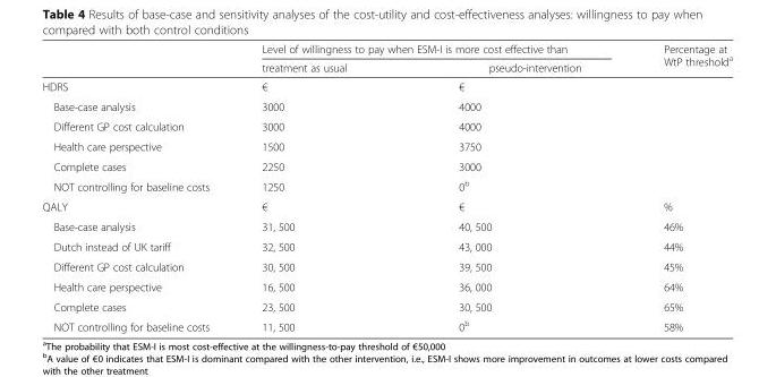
<table><thead><tr><td rowspan="2"></td><td colspan="2">Level of willingness to pay when ESM-I is more cost effective than</td><td rowspan="2">Percentage at WtP threshold<sup>a</sup></td></tr><tr><td>treatment as usual</td><td>pseudo-intervention</td></tr></thead><tbody><tr><td>HDRS</td><td>€</td><td>€</td><td></td></tr><tr><td>Base-case analysis</td><td>3000</td><td>4000</td><td></td></tr><tr><td>Different GP cost calculation</td><td>3000</td><td>4000</td><td></td></tr><tr><td>Health care perspective</td><td>1500</td><td>3750</td><td></td></tr><tr><td>Complete cases</td><td>2250</td><td>3000</td><td></td></tr><tr><td>NOT controlling for baseline costs</td><td>1250</td><td>0<sup>b</sup></td><td></td></tr><tr><td>QALY</td><td>€</td><td>€</td><td>%</td></tr><tr><td>Base-case analysis</td><td>31, 500</td><td>40, 500</td><td>46%</td></tr><tr><td>Dutch instead of UK tariff</td><td>32, 500</td><td>43, 000</td><td>44%</td></tr><tr><td>Different GP cost calculation</td><td>30, 500</td><td>39, 500</td><td>45%</td></tr><tr><td>Health care perspective</td><td>16, 500</td><td>36, 000</td><td>64%</td></tr><tr><td>Complete cases</td><td>23, 500</td><td>30, 500</td><td>65%</td></tr><tr><td>NOT controlling for baseline costs</td><td>11, 500</td><td>0<sup>b</sup></td><td>58%</td></tr></tbody></table>